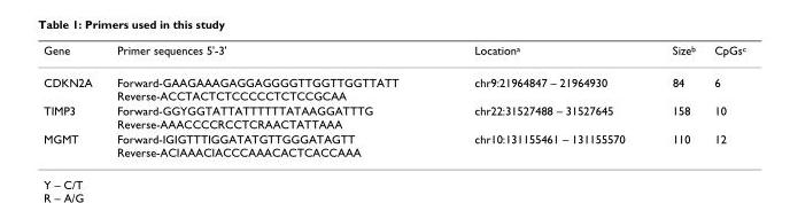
<table><thead><tr><td>Gene</td><td>Primer sequences 5&#x27;-3&#x27;</td><td>Location<sup>a</sup></td><td>Size<sup>b</sup></td><td>CpGs<sup>c</sup></td></tr></thead><tbody><tr><td>CDKN2A</td><td>Forward-GAAGAAAGAGGAGGGGTTGGTTGGTTATT Reverse-ACCTACTCTCCCCCTCTCCGCAA</td><td>chr9:21964847 – 21964930</td><td>84</td><td>6</td></tr><tr><td>TIMP3</td><td>Forward-GGYGGTATTATTTTTTATAAGGATTTG Reverse-AAACCCCRCCTCRAACTATTAAA</td><td>chr22:31527488 – 31527645</td><td>158</td><td>10</td></tr><tr><td>MGMT</td><td>Forward-IGIGTTTIGGATATGTTGGGATAGTT Reverse-ACIAAACIACCCAAACACTCACCAAA</td><td>chr10:131155461 – 131155570</td><td>110</td><td>12</td></tr></tbody></table>